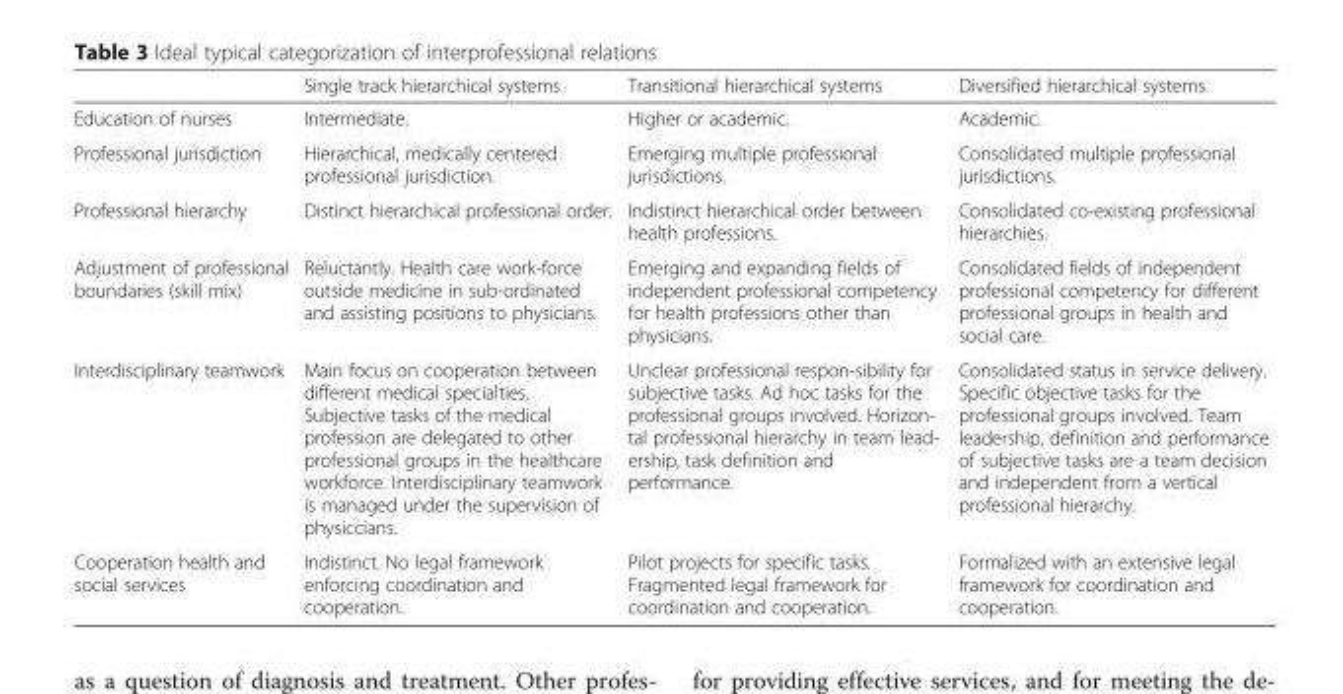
<table><thead><tr><td></td><td>Single track hierarchical systems</td><td>Transitional hierarchical systems</td><td>Diversified hierarchical systems</td></tr></thead><tbody><tr><td>Education of nurses</td><td>Intermediate.</td><td>Higher or academic.</td><td>Academic.</td></tr><tr><td>Professional jurisdiction</td><td>Hierarchical, medically centered professional jurisdiction.</td><td>Emerging multiple professional jurisdictions.</td><td>Consolidated multiple professional jurisdictions.</td></tr><tr><td>Professional hierarchy</td><td>Distinct hierarchical professional order.</td><td>Indistinct hierarchical order between health professions.</td><td>Consolidated co-existing professional hierarchies.</td></tr><tr><td>Adjustment of professional boundaries (skill mix)</td><td>Reluctantly. Health care work-force outside medicine in sub-ordinated and assisting positions to physicians.</td><td>Emerging and expanding fields of independent professional competency for health professions other than physicians.</td><td>Consolidated fields of independent professional competency for different professional groups in health and social care.</td></tr><tr><td>Interdisciplinary teamwork</td><td>Main focus on cooperation between different medical specialties. Subjective tasks of the medical profession are delegated to other professional groups in the healthcare workforce. Interdisciplinary teamwork is managed under the supervision of physiccians.</td><td>Unclear professional respon-sibility for subjective tasks. Ad hoc tasks for the professional groups involved. Horizon- tal professional hierarchy in team lead- ership, task definition and performance.</td><td>Consolidated status in service delivery. Specific objective tasks for the professional groups involved. Team leadership, definition and performance of subjective tasks are a team decision and independent from a vertical professional hierarchy.</td></tr><tr><td>Cooperation health and social services</td><td>Indistinct. No legal framework enforcing coordination and cooperation.</td><td>Pilot projects for specific tasks. Fragmented legal framework for coordination and cooperation.</td><td>Formalized with an extensive legal framework for coordination and cooperation.</td></tr></tbody></table>